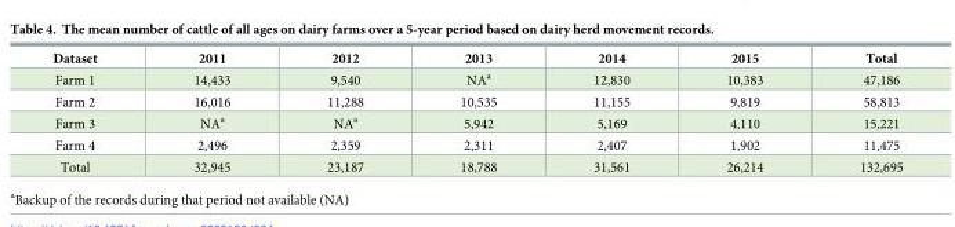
<table><thead><tr><td>Dataset</td><td>2011</td><td>2012</td><td>2013</td><td>2014</td><td>2015</td><td>Total</td></tr></thead><tbody><tr><td>Farm 1</td><td>14,433</td><td>9,540</td><td>NA<sup>a</sup></td><td>12,830</td><td>10,383</td><td>47,186</td></tr><tr><td>Farm 2</td><td>16,016</td><td>11,288</td><td>10,535</td><td>11,155</td><td>9,819</td><td>58,813</td></tr><tr><td>Farm 3</td><td>NA<sup>a</sup></td><td>NA<sup>a</sup></td><td>5,942</td><td>5,169</td><td>4,110</td><td>15,221</td></tr><tr><td>Farm 4</td><td>2,496</td><td>2,359</td><td>2,311</td><td>2,407</td><td>1,902</td><td>11,475</td></tr><tr><td>Total</td><td>32,945</td><td>23,187</td><td>18,788</td><td>31,561</td><td>26,214</td><td>132,695</td></tr></tbody></table>